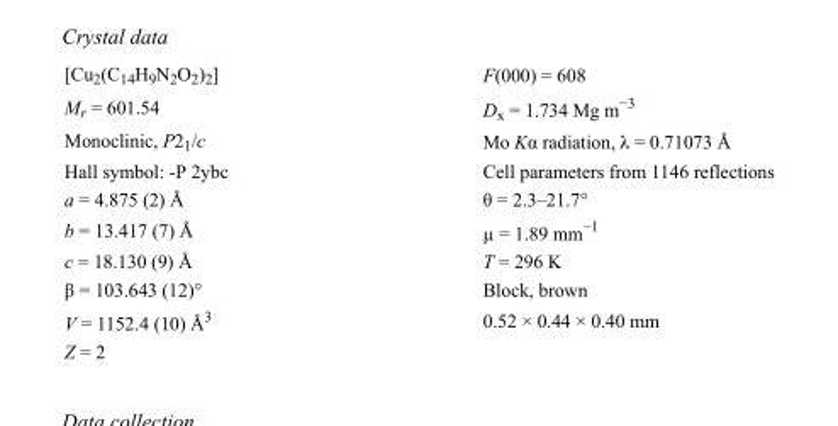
<table><tbody><tr><td>[Cu<sub>2</sub>(C<sub>14</sub>H<sub>9</sub>N<sub>2</sub>O<sub>2</sub>)<sub>2</sub>]</td><td>F(000) = 608</td></tr><tr><td>M<sub>r</sub> = 601.54</td><td>D<sub>x</sub> = 1.734 Mg m<sup>−3</sup></td></tr><tr><td>Monoclinic, P2<sub>1</sub>/c</td><td>Mo Kα radiation, λ = 0.71073 Å</td></tr><tr><td>Hall symbol: -P 2ybc</td><td>Cell parameters from 1146 reflections</td></tr><tr><td>a = 4.875 (2) Å</td><td>θ = 2.3–21.7°</td></tr><tr><td>b = 13.417 (7) Å</td><td>µ = 1.89 mm<sup>−1</sup></td></tr><tr><td>c = 18.130 (9) Å</td><td>T = 296 K</td></tr><tr><td>β = 103.643 (12)°</td><td>Block, brown</td></tr><tr><td>V = 1152.4 (10) Å<sup>3</sup></td><td>0.52 × 0.44 × 0.40 mm</td></tr><tr><td>Z = 2</td><td></td></tr></tbody></table>